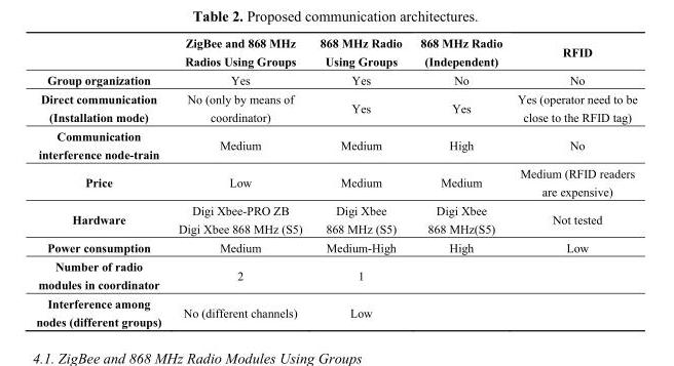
<table><thead><tr><td></td><td>ZigBee and 868 MHz Radios Using Groups</td><td>868 MHz Radio Using Groups</td><td>868 MHz Radio (Independent)</td><td>RFID</td></tr></thead><tbody><tr><td>Group organization</td><td>Yes</td><td>Yes</td><td>No</td><td>No</td></tr><tr><td>Direct communication (Installation mode)</td><td>No (only by means of coordinator)</td><td>Yes</td><td>Yes</td><td>Yes (operator need to be close to the RFID tag)</td></tr><tr><td>Communication interference node-train</td><td>Medium</td><td>Medium</td><td>High</td><td>No</td></tr><tr><td>Price</td><td>Low</td><td>Medium</td><td>Medium</td><td>Medium (RFID readers are expensive)</td></tr><tr><td>Hardware</td><td>Digi Xbee-PRO ZB Digi Xbee 868 MHz (S5)</td><td>Digi Xbee 868 MHz (S5)</td><td>Digi Xbee 868 MHz(S5)</td><td>Not tested</td></tr><tr><td>Power consumption</td><td>Medium</td><td>Medium-High</td><td>High</td><td>Low</td></tr><tr><td>Number of radio modules in coordinator</td><td>2</td><td>1</td><td></td><td></td></tr><tr><td>Interference among nodes (different groups)</td><td>No (different channels)</td><td>Low</td><td></td><td></td></tr></tbody></table>